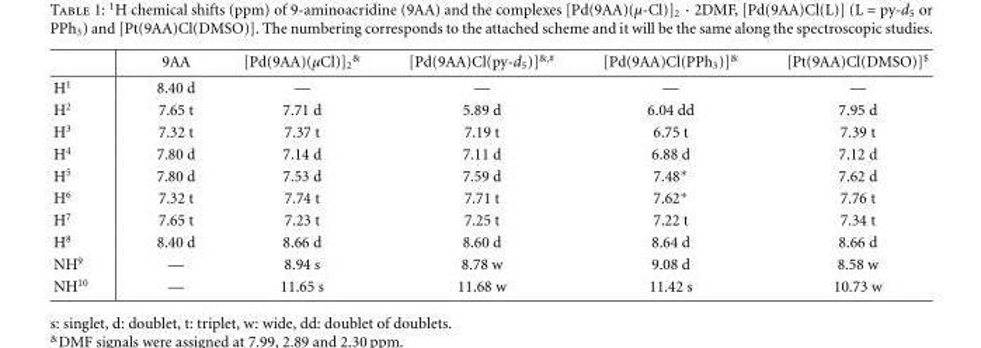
<table><thead><tr><td></td><td>9AA</td><td>[Pd(9AA)(μCl)]2&amp;</td><td>[Pd(9AA)Cl(py-d<sub>5</sub>)]<sup>&amp;,#</sup></td><td>[Pd(9AA)Cl(PPh<sub>3</sub>)]<sup>&amp;</sup></td><td>[Pt(9AA)Cl(DMSO)]<sup>$</sup></td></tr></thead><tbody><tr><td>H<sup>1</sup></td><td>8.40 d</td><td>—</td><td>—</td><td>—</td><td>—</td></tr><tr><td>H<sup>2</sup></td><td>7.65 t</td><td>7.71 d</td><td>5.89 d</td><td>6.04 dd</td><td>7.95 d</td></tr><tr><td>H<sup>3</sup></td><td>7.32 t</td><td>7.37 t</td><td>7.19 t</td><td>6.75 t</td><td>7.39 t</td></tr><tr><td>H<sup>4</sup></td><td>7.80 d</td><td>7.14 d</td><td>7.11 d</td><td>6.88 d</td><td>7.12 d</td></tr><tr><td>H<sup>5</sup></td><td>7.80 d</td><td>7.53 d</td><td>7.59 d</td><td>7.48∗</td><td>7.62 d</td></tr><tr><td>H<sup>6</sup></td><td>7.32 t</td><td>7.74 t</td><td>7.71 t</td><td>7.62∗</td><td>7.76 t</td></tr><tr><td>H<sup>7</sup></td><td>7.65 t</td><td>7.23 t</td><td>7.25 t</td><td>7.22 t</td><td>7.34 t</td></tr><tr><td>H<sup>8</sup></td><td>8.40 d</td><td>8.66 d</td><td>8.60 d</td><td>8.64 d</td><td>8.66 d</td></tr><tr><td>NH<sup>9</sup></td><td>—</td><td>8.94 s</td><td>8.78 w</td><td>9.08 d</td><td>8.58 w</td></tr><tr><td>NH<sup>10</sup></td><td>—</td><td>11.65 s</td><td>11.68 w</td><td>11.42 s</td><td>10.73 w</td></tr></tbody></table>